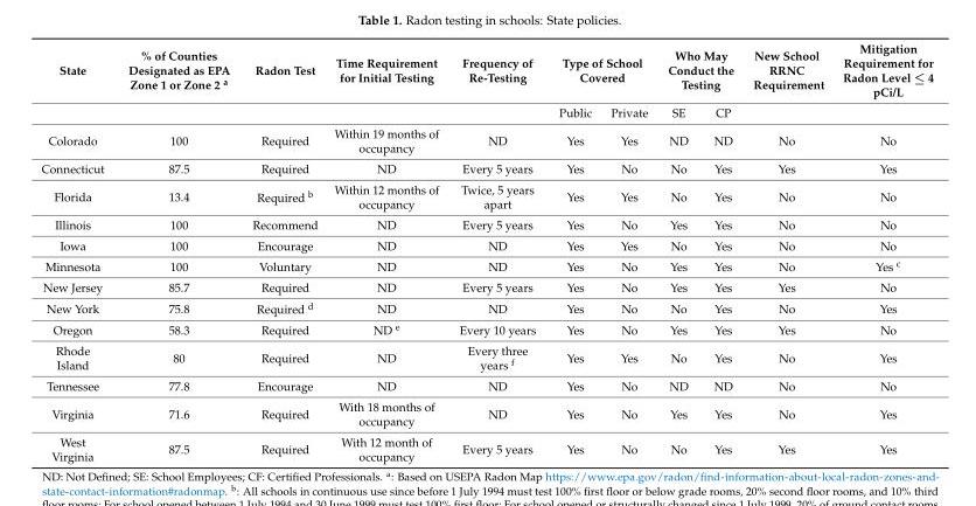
<table><thead><tr><td rowspan="2">State</td><td rowspan="2">% of Counties Designated as EPA Zone 1 or Zone 2 <sup>a</sup></td><td rowspan="2">Radon Test</td><td rowspan="2">Time Requirement for Initial Testing</td><td rowspan="2">Frequency of Re-Testing</td><td colspan="2">Type of School Covered</td><td colspan="2">Who May Conduct the Testing</td><td rowspan="2">New School RRNC Requirement</td><td rowspan="2">Mitigation Requirement for Radon Level ≤ 4 pCi/L</td></tr><tr><td>Public</td><td>Private</td><td>SE</td><td>CP</td></tr></thead><tbody><tr><td>Colorado</td><td>100</td><td>Required</td><td>Within 19 months of occupancy</td><td>ND</td><td>Yes</td><td>Yes</td><td>ND</td><td>ND</td><td>No</td><td>No</td></tr><tr><td>Connecticut</td><td>87.5</td><td>Required</td><td>ND</td><td>Every 5 years</td><td>Yes</td><td>No</td><td>No</td><td>Yes</td><td>Yes</td><td>Yes</td></tr><tr><td>Florida</td><td>13.4</td><td>Required <sup>b</sup></td><td>Within 12 months of occupancy</td><td>Twice, 5 years apart</td><td>Yes</td><td>Yes</td><td>No</td><td>Yes</td><td>No</td><td>No</td></tr><tr><td>Illinois</td><td>100</td><td>Recommend</td><td>ND</td><td>Every 5 years</td><td>Yes</td><td>No</td><td>Yes</td><td>Yes</td><td>No</td><td>No</td></tr><tr><td>Iowa</td><td>100</td><td>Encourage</td><td>ND</td><td>ND</td><td>Yes</td><td>Yes</td><td>No</td><td>Yes</td><td>No</td><td>No</td></tr><tr><td>Minnesota</td><td>100</td><td>Voluntary</td><td>ND</td><td>ND</td><td>Yes</td><td>No</td><td>Yes</td><td>Yes</td><td>No</td><td>Yes <sup>c</sup></td></tr><tr><td>New Jersey</td><td>85.7</td><td>Required</td><td>ND</td><td>Every 5 years</td><td>Yes</td><td>No</td><td>Yes</td><td>Yes</td><td>Yes</td><td>No</td></tr><tr><td>New York</td><td>75.8</td><td>Required <sup>d</sup></td><td>ND</td><td>ND</td><td>Yes</td><td>No</td><td>No</td><td>Yes</td><td>No</td><td>Yes</td></tr><tr><td>Oregon</td><td>58.3</td><td>Required</td><td>ND <sup>e</sup></td><td>Every 10 years</td><td>Yes</td><td>No</td><td>Yes</td><td>Yes</td><td>Yes</td><td>No</td></tr><tr><td>Rhode Island</td><td>80</td><td>Required</td><td>ND</td><td>Every three years <sup>f</sup></td><td>Yes</td><td>Yes</td><td>No</td><td>Yes</td><td>No</td><td>Yes</td></tr><tr><td>Tennessee</td><td>77.8</td><td>Encourage</td><td>ND</td><td>ND</td><td>Yes</td><td>No</td><td>ND</td><td>ND</td><td>No</td><td>No</td></tr><tr><td>Virginia</td><td>71.6</td><td>Required</td><td>With 18 months of occupancy</td><td>ND</td><td>Yes</td><td>No</td><td>Yes</td><td>Yes</td><td>No</td><td>Yes</td></tr><tr><td>West Virginia</td><td>87.5</td><td>Required</td><td>With 12 month of occupancy</td><td>Every 5 years</td><td>Yes</td><td>No</td><td>No</td><td>Yes</td><td>Yes</td><td>Yes</td></tr></tbody></table>